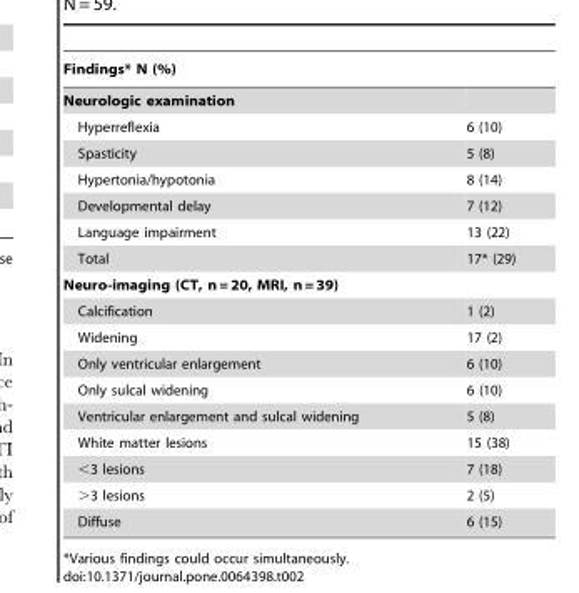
<table><thead><tr><td>Findings* N (%)</td><td></td></tr></thead><tbody><tr><td colspan="2">Neurologic examination</td></tr><tr><td>Hyperreflexia</td><td>6 (10)</td></tr><tr><td>Spasticity</td><td>5 (8)</td></tr><tr><td>Hypertonia/hypotonia</td><td>8 (14)</td></tr><tr><td>Developmental delay</td><td>7 (12)</td></tr><tr><td>Language impairment</td><td>13 (22)</td></tr><tr><td>Total</td><td>17* (29)</td></tr><tr><td colspan="2">Neuro-imaging (CT, n = 20, MRI, n = 39)</td></tr><tr><td>Calcification</td><td>1 (2)</td></tr><tr><td>Widening</td><td>17 (2)</td></tr><tr><td>Only ventricular enlargement</td><td>6 (10)</td></tr><tr><td>Only sulcal widening</td><td>6 (10)</td></tr><tr><td>Ventricular enlargement and sulcal widening</td><td>5 (8)</td></tr><tr><td>White matter lesions</td><td>15 (38)</td></tr><tr><td>&lt;3 lesions</td><td>7 (18)</td></tr><tr><td>&gt;3 lesions</td><td>2 (5)</td></tr><tr><td>Diffuse</td><td>6 (15)</td></tr></tbody></table>